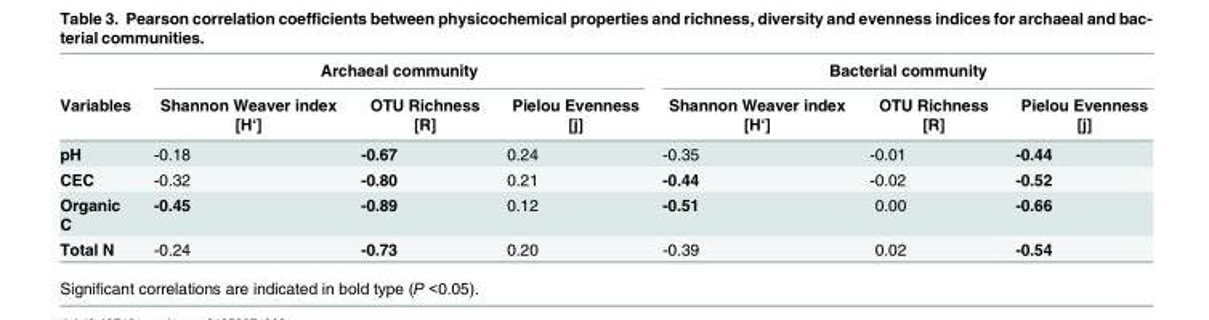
<table><thead><tr><td rowspan="2">Variables</td><td colspan="3">Archaeal community</td><td colspan="3">Bacterial community</td></tr><tr><td>Shannon Weaver index [H‘]</td><td>OTU Richness [R]</td><td>Pielou Evenness [j]</td><td>Shannon Weaver index [H‘]</td><td>OTU Richness [R]</td><td>Pielou Evenness [j]</td></tr></thead><tbody><tr><td>pH</td><td>-0.18</td><td>-0.67</td><td>0.24</td><td>-0.35</td><td>-0.01</td><td>-0.44</td></tr><tr><td>CEC</td><td>-0.32</td><td>-0.80</td><td>0.21</td><td>-0.44</td><td>-0.02</td><td>-0.52</td></tr><tr><td>Organic C</td><td>-0.45</td><td>-0.89</td><td>0.12</td><td>-0.51</td><td>0.00</td><td>-0.66</td></tr><tr><td>Total N</td><td>-0.24</td><td>-0.73</td><td>0.20</td><td>-0.39</td><td>0.02</td><td>-0.54</td></tr></tbody></table>